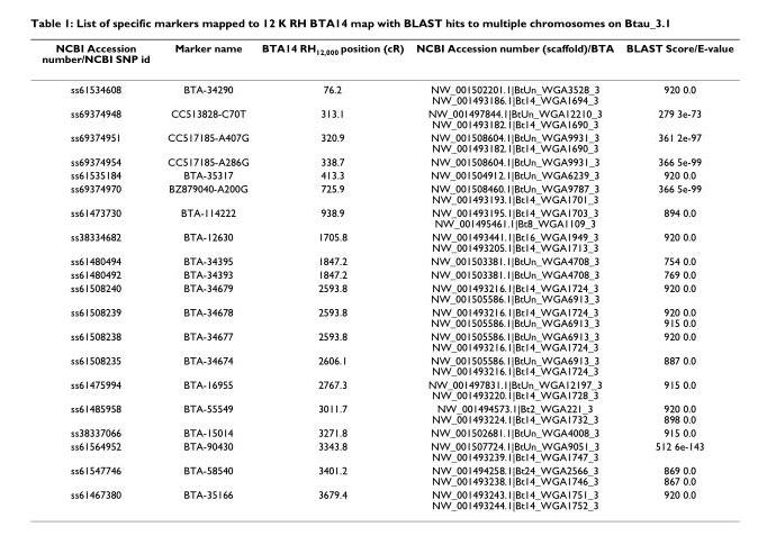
<table><thead><tr><td>NCBI Accession number/NCBI SNP id</td><td>Marker name</td><td>BTA14 RH<sub>12,000</sub> position (cR)</td><td>NCBI Accession number (scaffold)/BTA</td><td>BLAST Score/E-value</td></tr></thead><tbody><tr><td>ss61534608</td><td>BTA-34290</td><td>76.2</td><td>NW_001502201.1|BtUn_WGA3528_3 NW_001493186.1|Bt14_WGA1694_3</td><td>920 0.0</td></tr><tr><td>ss69374948</td><td>CC513828-C70T</td><td>313.1</td><td>NW_001497844.1|BtUn_WGA12210_3 NW_001493182.1|Bt14_WGA1690_3</td><td>279 3e-73</td></tr><tr><td>ss69374951</td><td>CC517185-A407G</td><td>320.9</td><td>NW_001508604.1|BtUn_WGA9931_3 NW_001493182.1|Bt14_WGA1690_3</td><td>361 2e-97</td></tr><tr><td>ss69374954</td><td>CC517185-A286G</td><td>338.7</td><td>NW_001508604.1|BtUn_WGA9931_3</td><td>366 5e-99</td></tr><tr><td>ss61535184</td><td>BTA-35317</td><td>413.3</td><td>NW_001504912.1|BtUn_WGA6239_3</td><td>920 0.0</td></tr><tr><td>ss69374970</td><td>BZ879040-A200G</td><td>725.9</td><td>NW_001508460.1|BtUn_WGA9787_3 NW_001493193.1|Bt14_WGA1701_3</td><td>366 5e-99</td></tr><tr><td>ss61473730</td><td>BTA-114222</td><td>938.9</td><td>NW_001493195.1|Bt14_WGA1703_3 NW_001495461.1|Bt8_WGA1109_3</td><td>894 0.0</td></tr><tr><td>ss38334682</td><td>BTA-12630</td><td>1705.8</td><td>NW_001493441.1|Bt16_WGA1949_3 NW_001493205.1|Bt14_WGA1713_3</td><td>920 0.0</td></tr><tr><td>ss61480494</td><td>BTA-34395</td><td>1847.2</td><td>NW_001503381.1|BtUn_WGA4708_3</td><td>754 0.0</td></tr><tr><td>ss61480492</td><td>BTA-34393</td><td>1847.2</td><td>NW_001503381.1|BtUn_WGA4708_3</td><td>769 0.0</td></tr><tr><td>ss61508240</td><td>BTA-34679</td><td>2593.8</td><td>NW_001493216.1|Bt14_WGA1724_3 NW_001505586.1|BtUn_WGA6913_3</td><td>920 0.0</td></tr><tr><td>ss61508239</td><td>BTA-34678</td><td>2593.8</td><td>NW_001493216.1|Bt14_WGA1724_3 NW_001505586.1|BtUn_WGA6913_3</td><td>920 0.0 915 0.0</td></tr><tr><td>ss61508238</td><td>BTA-34677</td><td>2593.8</td><td>NW_001505586.1|BtUn_WGA6913_3 NW_001493216.1|Bt14_WGA1724_3</td><td>920 0.0</td></tr><tr><td>ss61508235</td><td>BTA-34674</td><td>2606.1</td><td>NW_001505586.1|BtUn_WGA6913_3 NW_001493216.1|Bt14_WGA1724_3</td><td>887 0.0</td></tr><tr><td>ss61475994</td><td>BTA-16955</td><td>2767.3</td><td>NW_001497831.1|BtUn_WGA12197_3 NW_001493220.1|Bt14_WGA1728_3</td><td>915 0.0</td></tr><tr><td>ss61485958</td><td>BTA-55549</td><td>3011.7</td><td>NW_001494573.1|Bt2_WGA221_3 NW_001493224.1|Bt14_WGA1732_3</td><td>920 0.0 898 0.0</td></tr><tr><td>ss38337066</td><td>BTA-15014</td><td>3271.8</td><td>NW_001502681.1|BtUn_WGA4008_3</td><td>915 0.0</td></tr><tr><td>ss61564952</td><td>BTA-90430</td><td>3343.8</td><td>NW_001507724.1|BtUn_WGA9051_3 NW_001493239.1|Bt14_WGA1747_3</td><td>512 6e-143</td></tr><tr><td>ss61547746</td><td>BTA-58540</td><td>3401.2</td><td>NW_001494258.1|Bt24_WGA2566_3 NW_001493238.1|Bt14_WGA1746_3</td><td>869 0.0 867 0.0</td></tr><tr><td>ss61467380</td><td>BTA-35166</td><td>3679.4</td><td>NW_001493243.1|Bt14_WGA1751_3 NW_001493244.1|Bt14_WGA1752_3</td><td>920 0.0</td></tr></tbody></table>